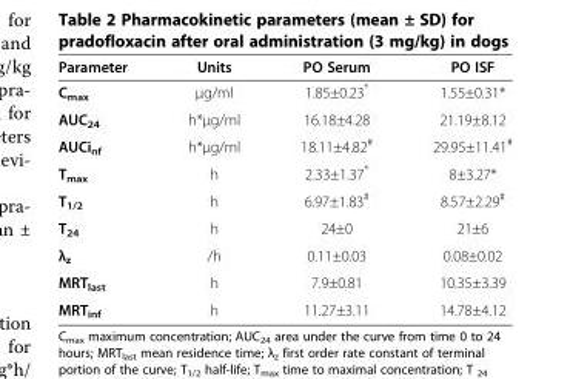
<table><thead><tr><td>Parameter</td><td>Units</td><td>PO Serum</td><td>PO ISF</td></tr></thead><tbody><tr><td>C<sub>max</sub></td><td>μg/ml</td><td>1.85±0.23*</td><td>1.55±0.31*</td></tr><tr><td>AUC<sub>24</sub></td><td>h*μg/ml</td><td>16.18±4.28</td><td>21.19±8.12</td></tr><tr><td>AUCi<sub>nf</sub></td><td>h*μg/ml</td><td>18.11±4.82<sup>#</sup></td><td>29.95±11.41<sup>#</sup></td></tr><tr><td>T<sub>max</sub></td><td>h</td><td>2.33±1.37*</td><td>8±3.27*</td></tr><tr><td>T<sub>1/2</sub></td><td>h</td><td>6.97±1.83<sup>#</sup></td><td>8.57±2.29<sup>#</sup></td></tr><tr><td>T<sub>24</sub></td><td>h</td><td>24±0</td><td>21±6</td></tr><tr><td>λ<sub>z</sub></td><td>/h</td><td>0.11±0.03</td><td>0.08±0.02</td></tr><tr><td>MRT<sub>last</sub></td><td>h</td><td>7.9±0.81</td><td>10.35±3.39</td></tr><tr><td>MRT<sub>inf</sub></td><td>h</td><td>11.27±3.11</td><td>14.78±4.12</td></tr></tbody></table>